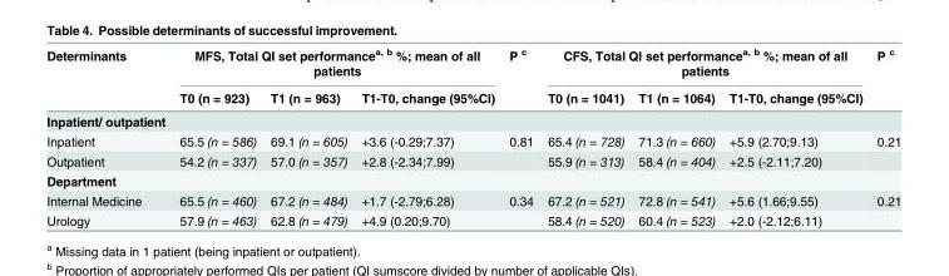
<table><thead><tr><td rowspan="2">Determinants</td><td colspan="3">MFS, Total QI set performance<sup>a, b</sup> %; mean of all patients</td><td rowspan="2">P <sup>c</sup></td><td colspan="3">CFS, Total QI set performance<sup>a, b</sup> %; mean of all patients</td><td rowspan="2">P <sup>c</sup></td></tr><tr><td>T0 (n = 923)</td><td>T1 (n = 963)</td><td>T1-T0, change (95%CI)</td><td>T0 (n = 1041)</td><td>T1 (n = 1064)</td><td>T1-T0, change (95%CI)</td></tr></thead><tbody><tr><td colspan="9">Inpatient/ outpatient</td></tr><tr><td>Inpatient</td><td>65.5 (n = 586)</td><td>69.1 (n = 605)</td><td>+3.6 (-0.29;7.37)</td><td>0.81</td><td>65.4 (n = 728)</td><td>71.3 (n = 660)</td><td>+5.9 (2.70;9.13)</td><td>0.21</td></tr><tr><td>Outpatient</td><td>54.2 (n = 337)</td><td>57.0 (n = 357)</td><td>+2.8 (-2.34;7.99)</td><td></td><td>55.9 (n = 313)</td><td>58.4 (n = 404)</td><td>+2.5 (-2.11;7.20)</td><td></td></tr><tr><td colspan="9">Department</td></tr><tr><td>Internal Medicine</td><td>65.5 (n = 460)</td><td>67.2 (n = 484)</td><td>+1.7 (-2.79;6.28)</td><td>0.34</td><td>67.2 (n = 521)</td><td>72.8 (n = 541)</td><td>+5.6 (1.66;9.55)</td><td>0.21</td></tr><tr><td>Urology</td><td>57.9 (n = 463)</td><td>62.8 (n = 479)</td><td>+4.9 (0.20;9.70)</td><td></td><td>58.4 (n = 520)</td><td>60.4 (n = 523)</td><td>+2.0 (-2.12;6.11)</td><td></td></tr></tbody></table>